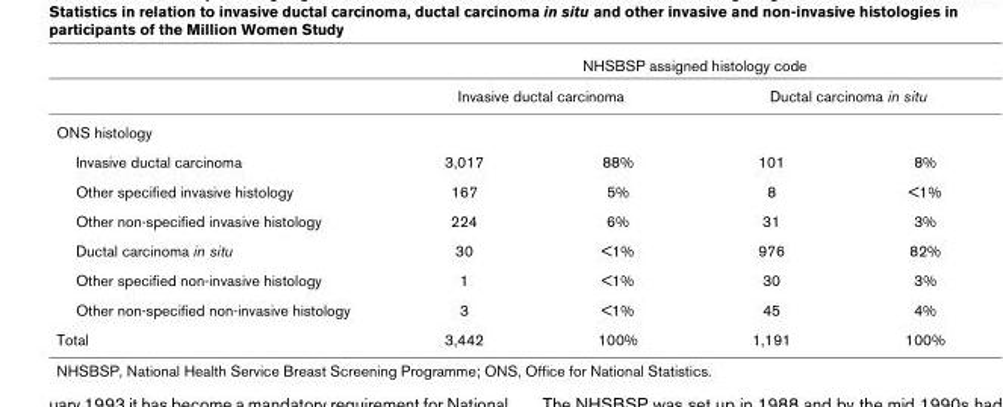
<table><thead><tr><td rowspan="3">ONS histology</td><td colspan="4">NHSBSP assigned histology code</td></tr><tr><td colspan="2">Invasive ductal carcinoma</td><td colspan="2">Ductal carcinoma in situ</td></tr><tr><td></td><td></td><td></td><td></td></tr></thead><tbody><tr><td>Invasive ductal carcinoma</td><td>3,017</td><td>88%</td><td>101</td><td>8%</td></tr><tr><td>Other specified invasive histology</td><td>167</td><td>5%</td><td>8</td><td>&lt;1%</td></tr><tr><td>Other non-specified invasive histology</td><td>224</td><td>6%</td><td>31</td><td>3%</td></tr><tr><td>Ductal carcinoma in situ</td><td>30</td><td>&lt;1%</td><td>976</td><td>82%</td></tr><tr><td>Other specified non-invasive histology</td><td>1</td><td>&lt;1%</td><td>30</td><td>3%</td></tr><tr><td>Other non-specified non-invasive histology</td><td>3</td><td>&lt;1%</td><td>45</td><td>4%</td></tr><tr><td>Total</td><td>3,442</td><td>100%</td><td>1,191</td><td>100%</td></tr></tbody></table>